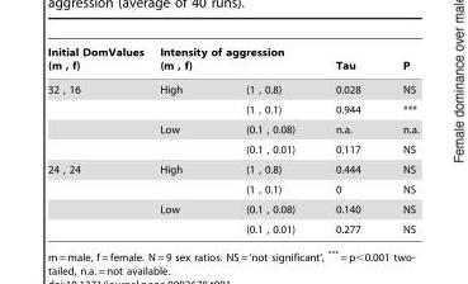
<table><thead><tr><td rowspan="2">Initial DomValues (m , f) 32 , 16</td><td colspan="2">Intensity of aggression (m , f)</td><td rowspan="2">Tau 0.028</td><td rowspan="2">P NS</td></tr><tr><td>High</td><td>(1 , 0.8)</td></tr></thead><tbody><tr><td></td><td></td><td>(1 , 0.1)</td><td>0.944</td><td>***</td></tr><tr><td></td><td>Low</td><td>(0.1 , 0.08)</td><td>n.a.</td><td>n.a.</td></tr><tr><td></td><td></td><td>(0.1 , 0.01)</td><td>0.117</td><td>NS</td></tr><tr><td rowspan="4">24 , 24</td><td>High</td><td>(1 , 0.8)</td><td>0.444</td><td>NS</td></tr><tr><td></td><td>(1 , 0.1)</td><td>0</td><td>NS</td></tr><tr><td>Low</td><td>(0.1 , 0.08)</td><td>0.140</td><td>NS</td></tr><tr><td></td><td>(0.1 , 0.01)</td><td>0.277</td><td>NS</td></tr></tbody></table>